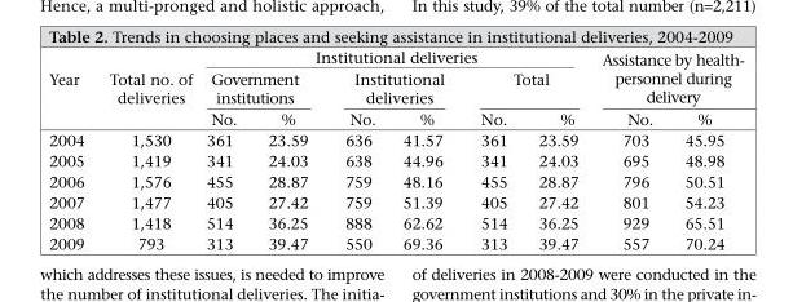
<table><thead><tr><td rowspan="3">Year</td><td rowspan="3">Total no. of deliveries</td><td colspan="6">Institutional deliveries</td><td rowspan="2" colspan="2">Assistance by health- personnel during delivery</td></tr><tr><td colspan="2">Government institutions</td><td colspan="2">Institutional deliveries</td><td colspan="2">Total</td></tr><tr><td>No.</td><td>%</td><td>No.</td><td>%</td><td>No.</td><td>%</td><td>No.</td><td>%</td></tr></thead><tbody><tr><td>2004</td><td>1,530</td><td>361</td><td>23.59</td><td>636</td><td>41.57</td><td>361</td><td>23.59</td><td>703</td><td>45.95</td></tr><tr><td>2005</td><td>1,419</td><td>341</td><td>24.03</td><td>638</td><td>44.96</td><td>341</td><td>24.03</td><td>695</td><td>48.98</td></tr><tr><td>2006</td><td>1,576</td><td>455</td><td>28.87</td><td>759</td><td>48.16</td><td>455</td><td>28.87</td><td>796</td><td>50.51</td></tr><tr><td>2007</td><td>1,477</td><td>405</td><td>27.42</td><td>759</td><td>51.39</td><td>405</td><td>27.42</td><td>801</td><td>54.23</td></tr><tr><td>2008</td><td>1,418</td><td>514</td><td>36.25</td><td>888</td><td>62.62</td><td>514</td><td>36.25</td><td>929</td><td>65.51</td></tr><tr><td>2009</td><td>793</td><td>313</td><td>39.47</td><td>550</td><td>69.36</td><td>313</td><td>39.47</td><td>557</td><td>70.24</td></tr></tbody></table>